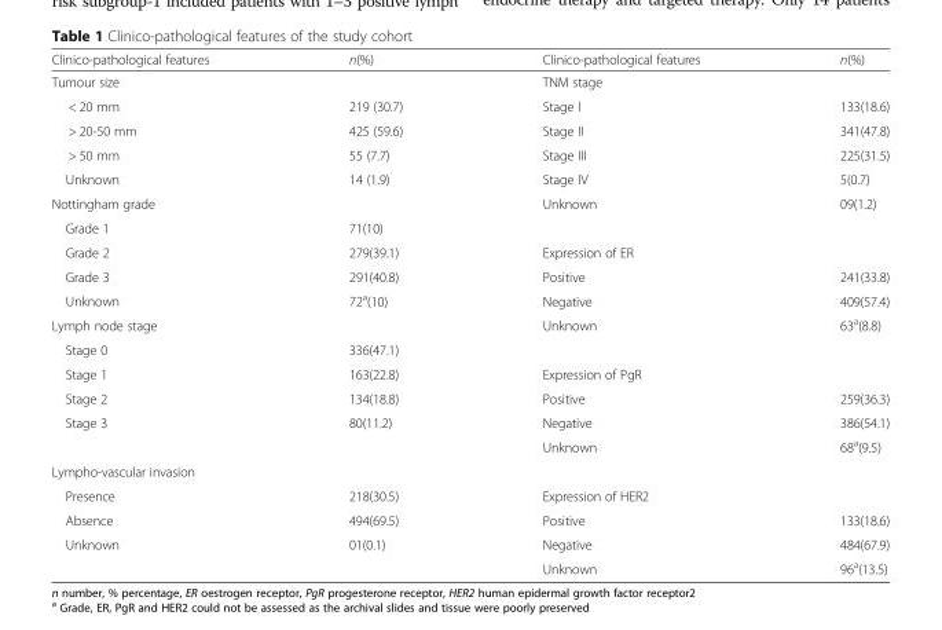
<table><thead><tr><td>Clinico-pathological features</td><td>n(%)</td><td>Clinico-pathological features</td><td>n(%)</td></tr></thead><tbody><tr><td>Tumour size</td><td></td><td>TNM stage</td><td></td></tr><tr><td>&lt; 20 mm</td><td>219 (30.7)</td><td>Stage I</td><td>133(18.6)</td></tr><tr><td>&gt; 20-50 mm</td><td>425 (59.6)</td><td>Stage II</td><td>341(47.8)</td></tr><tr><td>&gt; 50 mm</td><td>55 (7.7)</td><td>Stage III</td><td>225(31.5)</td></tr><tr><td>Unknown</td><td>14 (1.9)</td><td>Stage IV</td><td>5(0.7)</td></tr><tr><td>Nottingham grade</td><td></td><td>Unknown</td><td>09(1.2)</td></tr><tr><td>Grade 1</td><td>71(10)</td><td></td><td rowspan="2"></td></tr><tr><td>Grade 2</td><td>279(39.1)</td><td>Expression of ER</td></tr><tr><td>Grade 3</td><td>291(40.8)</td><td>Positive</td><td>241(33.8)</td></tr><tr><td>Unknown</td><td>72<sup>a</sup>(10)</td><td>Negative</td><td>409(57.4)</td></tr><tr><td>Lymph node stage</td><td></td><td>Unknown</td><td>63<sup>a</sup>(8.8)</td></tr><tr><td>Stage 0</td><td>336(47.1)</td><td></td><td rowspan="2"></td></tr><tr><td>Stage 1</td><td>163(22.8)</td><td>Expression of PgR</td></tr><tr><td>Stage 2</td><td>134(18.8)</td><td>Positive</td><td>259(36.3)</td></tr><tr><td rowspan="2">Stage 3</td><td>80(11.2)</td><td>Negative</td><td>386(54.1)</td></tr><tr><td></td><td>Unknown</td><td>68<sup>a</sup>(9.5)</td></tr><tr><td colspan="4">Lympho-vascular invasion</td></tr><tr><td>Presence</td><td>218(30.5)</td><td>Expression of HER2</td><td></td></tr><tr><td>Absence</td><td>494(69.5)</td><td>Positive</td><td>133(18.6)</td></tr><tr><td rowspan="2">Unknown</td><td>01(0.1)</td><td>Negative</td><td>484(67.9)</td></tr><tr><td></td><td>Unknown</td><td>96<sup>a</sup>(13.5)</td></tr></tbody></table>